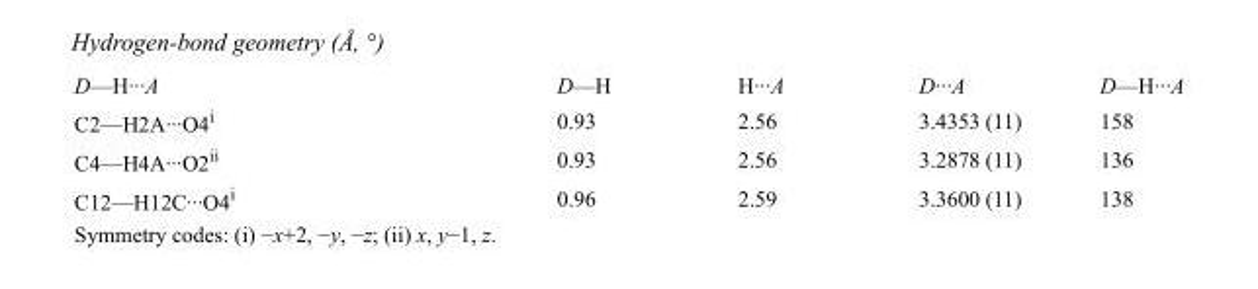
<table><tbody><tr><td>D—H···A</td><td>D—H</td><td>H···A</td><td>D···A</td><td>D—H···A</td></tr><tr><td>C2—H2A···O4<sup>i</sup></td><td>0.93</td><td>2.56</td><td>3.4353 (11)</td><td>158</td></tr><tr><td>C4—H4A···O2<sup>ii</sup></td><td>0.93</td><td>2.56</td><td>3.2878 (11)</td><td>136</td></tr><tr><td>C12—H12C···O4<sup>i</sup></td><td>0.96</td><td>2.59</td><td>3.3600 (11)</td><td>138</td></tr></tbody></table>